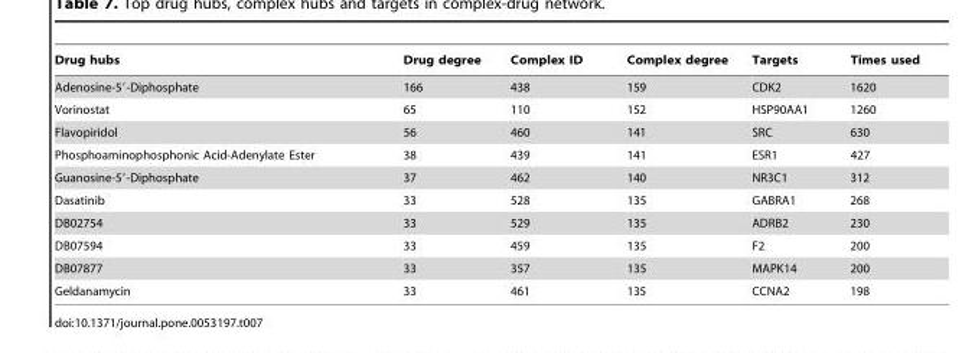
<table><thead><tr><td>Drug hubs</td><td>Drug degree</td><td>Complex ID</td><td>Complex degree</td><td>Targets</td><td>Times used</td></tr></thead><tbody><tr><td>Adenosine-5′-Diphosphate</td><td>166</td><td>438</td><td>159</td><td>CDK2</td><td>1620</td></tr><tr><td>Vorinostat</td><td>65</td><td>110</td><td>152</td><td>HSP90AA1</td><td>1260</td></tr><tr><td>Flavopiridol</td><td>56</td><td>460</td><td>141</td><td>SRC</td><td>630</td></tr><tr><td>Phosphoaminophosphonic Acid-Adenylate Ester</td><td>38</td><td>439</td><td>141</td><td>ESR1</td><td>427</td></tr><tr><td>Guanosine-5′-Diphosphate</td><td>37</td><td>462</td><td>140</td><td>NR3C1</td><td>312</td></tr><tr><td>Dasatinib</td><td>33</td><td>528</td><td>135</td><td>GABRA1</td><td>268</td></tr><tr><td>DB02754</td><td>33</td><td>529</td><td>135</td><td>ADRB2</td><td>230</td></tr><tr><td>DB07594</td><td>33</td><td>459</td><td>135</td><td>F2</td><td>200</td></tr><tr><td>DB07877</td><td>33</td><td>357</td><td>135</td><td>MAPK14</td><td>200</td></tr><tr><td>Geldanamycin</td><td>33</td><td>461</td><td>135</td><td>CCNA2</td><td>198</td></tr></tbody></table>